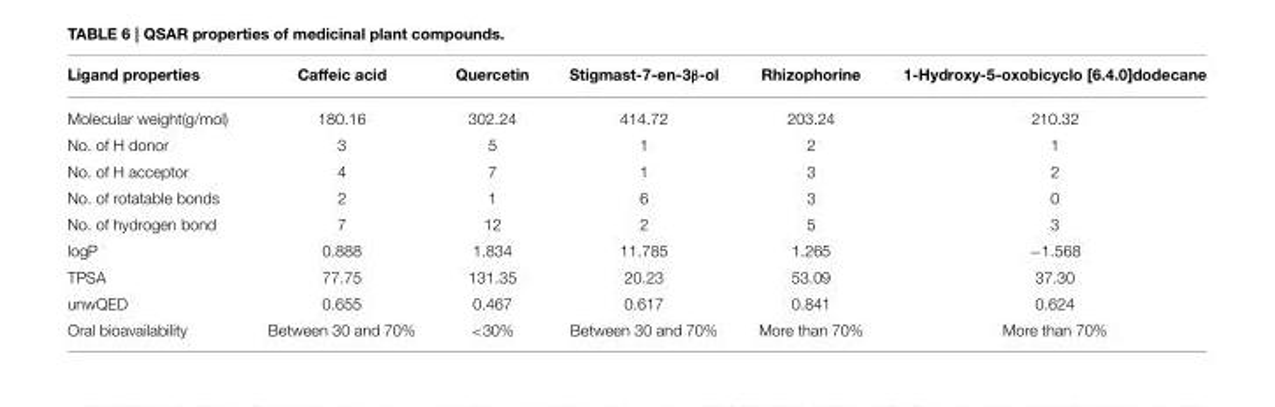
<table><thead><tr><td>Ligand properties</td><td>Caffeic acid</td><td>Quercetin</td><td>Stigmast-7-en-3β-ol</td><td>Rhizophorine</td><td>1-Hydroxy-5-oxobicyclo [6.4.0]dodecane</td></tr></thead><tbody><tr><td>Molecular weight(g/mol)</td><td>180.16</td><td>302.24</td><td>414.72</td><td>203.24</td><td>210.32</td></tr><tr><td>No. of H donor</td><td>3</td><td>5</td><td>1</td><td>2</td><td>1</td></tr><tr><td>No. of H acceptor</td><td>4</td><td>7</td><td>1</td><td>3</td><td>2</td></tr><tr><td>No. of rotatable bonds</td><td>2</td><td>1</td><td>6</td><td>3</td><td>0</td></tr><tr><td>No. of hydrogen bond</td><td>7</td><td>12</td><td>2</td><td>5</td><td>3</td></tr><tr><td>logP</td><td>0.888</td><td>1.834</td><td>11.785</td><td>1.265</td><td>−1.568</td></tr><tr><td>TPSA</td><td>77.75</td><td>131.35</td><td>20.23</td><td>53.09</td><td>37.30</td></tr><tr><td>unwQED</td><td>0.655</td><td>0.467</td><td>0.617</td><td>0.841</td><td>0.624</td></tr><tr><td>Oral bioavailability</td><td>Between 30 and 70%</td><td>&lt;30%</td><td>Between 30 and 70%</td><td>More than 70%</td><td>More than 70%</td></tr></tbody></table>